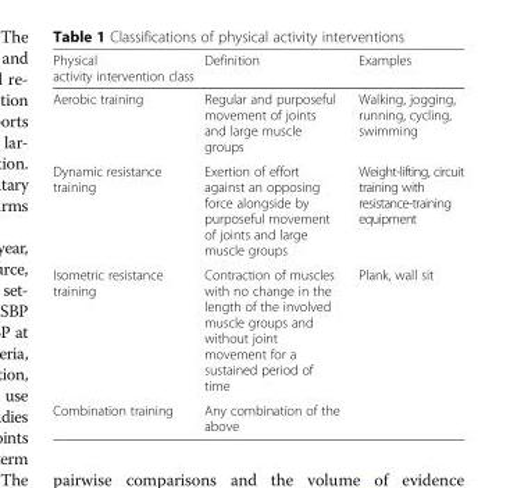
<table><thead><tr><td>Physical activity intervention class</td><td>Definition</td><td>Examples</td></tr></thead><tbody><tr><td>Aerobic training</td><td>Regular and purposeful movement of joints and large muscle groups</td><td>Walking, jogging, running, cycling, swimming</td></tr><tr><td>Dynamic resistance training</td><td>Exertion of effort against an opposing force alongside by purposeful movement of joints and large muscle groups</td><td>Weight-lifting, circuit training with resistance-training equipment</td></tr><tr><td>Isometric resistance training</td><td>Contraction of muscles with no change in the length of the involved muscle groups and without joint movement for a sustained period of time</td><td>Plank, wall sit</td></tr><tr><td>Combination training</td><td>Any combination of the above</td><td></td></tr></tbody></table>